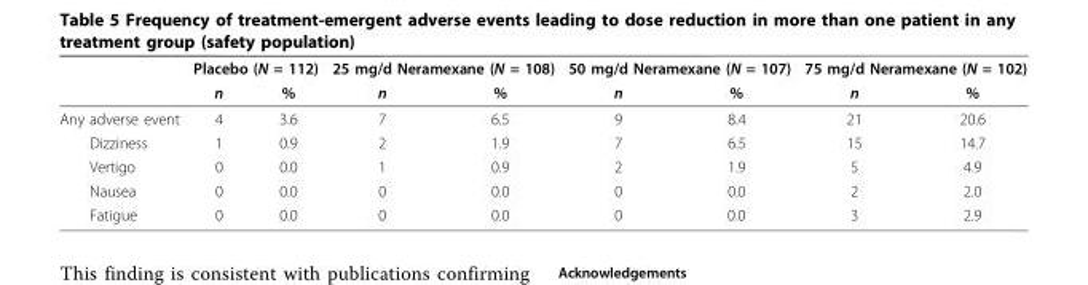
<table><thead><tr><td rowspan="2"></td><td colspan="2">Placebo (N = 112)</td><td colspan="2">25 mg/d Neramexane (N = 108)</td><td colspan="2">50 mg/d Neramexane (N = 107)</td><td colspan="2">75 mg/d Neramexane (N = 102)</td></tr><tr><td>n</td><td>%</td><td>n</td><td>%</td><td>n</td><td>%</td><td>n</td><td>%</td></tr></thead><tbody><tr><td>Any adverse event</td><td>4</td><td>3.6</td><td>7</td><td>6.5</td><td>9</td><td>8.4</td><td>21</td><td>20.6</td></tr><tr><td>Dizziness</td><td>1</td><td>0.9</td><td>2</td><td>1.9</td><td>7</td><td>6.5</td><td>15</td><td>14.7</td></tr><tr><td>Vertigo</td><td>0</td><td>0.0</td><td>1</td><td>0.9</td><td>2</td><td>1.9</td><td>5</td><td>4.9</td></tr><tr><td>Nausea</td><td>0</td><td>0.0</td><td>0</td><td>0.0</td><td>0</td><td>0.0</td><td>2</td><td>2.0</td></tr><tr><td>Fatigue</td><td>0</td><td>0.0</td><td>0</td><td>0.0</td><td>0</td><td>0.0</td><td>3</td><td>2.9</td></tr></tbody></table>